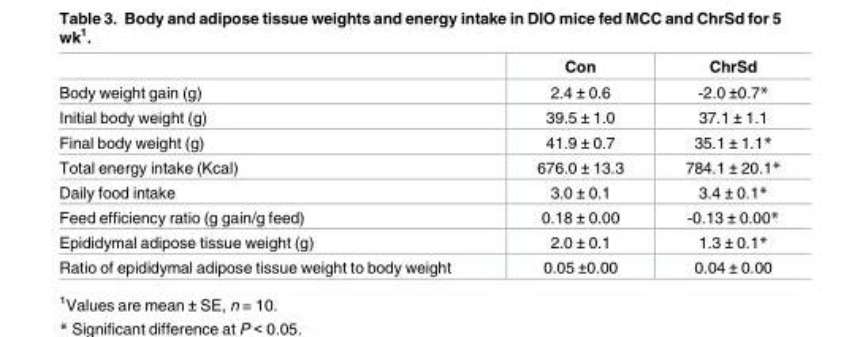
<table><thead><tr><td></td><td>Con</td><td>ChrSd</td></tr></thead><tbody><tr><td>Body weight gain (g)</td><td>2.4 ± 0.6</td><td>-2.0 ±0.7*</td></tr><tr><td>Initial body weight (g)</td><td>39.5 ± 1.0</td><td>37.1 ± 1.1</td></tr><tr><td>Final body weight (g)</td><td>41.9 ± 0.7</td><td>35.1 ± 1.1*</td></tr><tr><td>Total energy intake (Kcal)</td><td>676.0 ± 13.3</td><td>784.1 ± 20.1*</td></tr><tr><td>Daily food intake</td><td>3.0 ± 0.1</td><td>3.4 ± 0.1*</td></tr><tr><td>Feed efficiency ratio (g gain/g feed)</td><td>0.18 ± 0.00</td><td>-0.13 ± 0.00*</td></tr><tr><td>Epididymal adipose tissue weight (g)</td><td>2.0 ± 0.1</td><td>1.3 ± 0.1*</td></tr><tr><td>Ratio of epididymal adipose tissue weight to body weight</td><td>0.05 ±0.00</td><td>0.04 ± 0.00</td></tr></tbody></table>